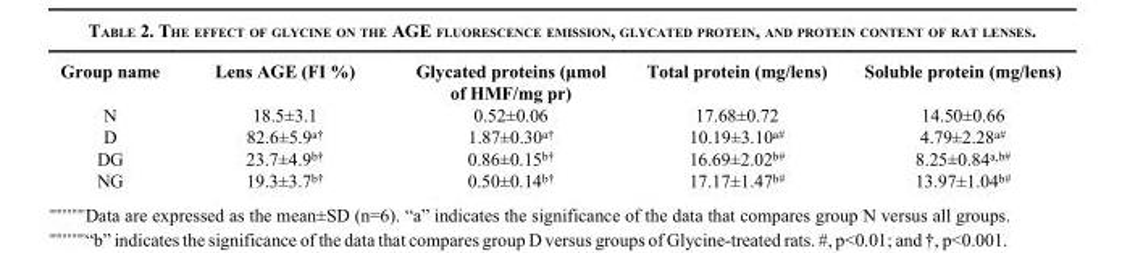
<table><thead><tr><td>Group name</td><td>Lens AGE (FI %)</td><td>Glycated proteins (μmol of HMF/mg pr)</td><td>Total protein (mg/lens)</td><td>Soluble protein (mg/lens)</td></tr></thead><tbody><tr><td>N</td><td>18.5±3.1</td><td>0.52±0.06</td><td>17.68±0.72</td><td>14.50±0.66</td></tr><tr><td>D</td><td>82.6±5.9<sup>a†</sup></td><td>1.87±0.30<sup>a†</sup></td><td>10.19±3.10<sup>a#</sup></td><td>4.79±2.28<sup>a#</sup></td></tr><tr><td>DG</td><td>23.7±4.9<sup>b†</sup></td><td>0.86±0.15<sup>b†</sup></td><td>16.69±2.02<sup>b#</sup></td><td>8.25±0.84<sup>a,b#</sup></td></tr><tr><td>NG</td><td>19.3±3.7<sup>b†</sup></td><td>0.50±0.14<sup>b†</sup></td><td>17.17±1.47<sup>b#</sup></td><td>13.97±1.04<sup>b#</sup></td></tr></tbody></table>